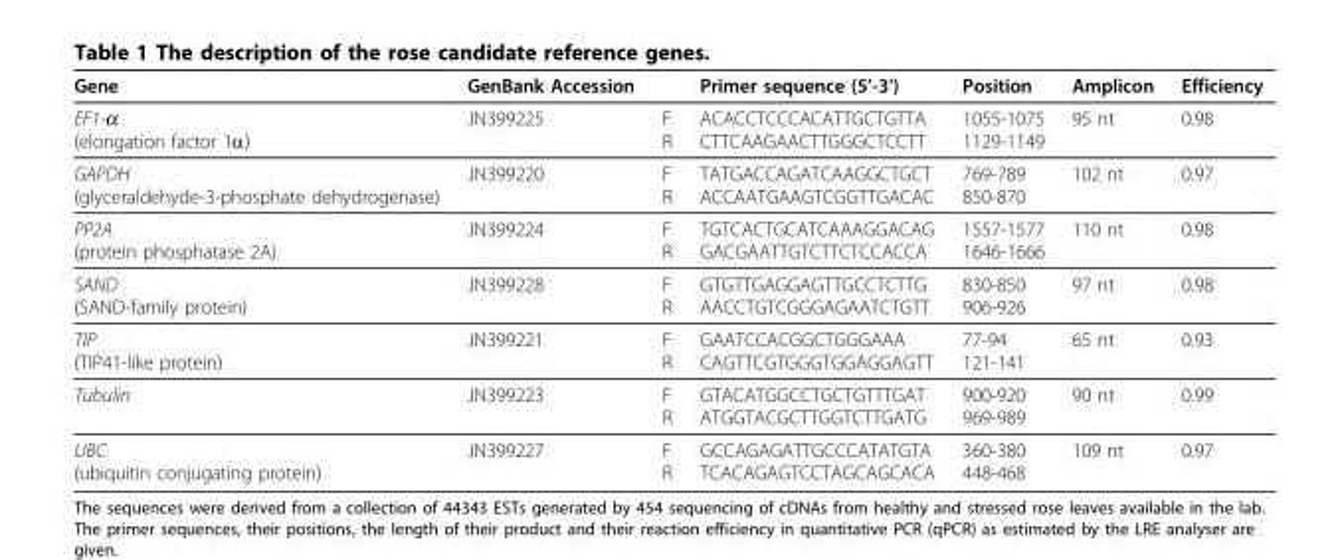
<table><thead><tr><td>Gene</td><td>GenBank Accession</td><td></td><td>Primer sequence (5’-3’)</td><td>Position</td><td>Amplicon</td><td>Efficiency</td></tr></thead><tbody><tr><td>EF1-α (elongation factor 1α)</td><td>JN399225</td><td>F R</td><td>ACACCTCCCACATTGCTGTTA CTTCAAGAACTTGGGCTCCTT</td><td>1055-1075 1129-1149</td><td>95 nt</td><td>0.98</td></tr><tr><td>GAPDH (glyceraldehyde-3-phosphate dehydrogenase)</td><td>JN399220</td><td>F R</td><td>TATGACCAGATCAAGGCTGCT ACCAATGAAGTCGGTTGACAC</td><td>769-789 850-870</td><td>102 nt</td><td>0.97</td></tr><tr><td>PP2A (protein phosphatase 2A)</td><td>JN399224</td><td>F R</td><td>TGTCACTGCATCAAAGGACAG GACGAATTGTCTTCTCCACCA</td><td>1557-1577 1646-1666</td><td>110 nt</td><td>0.98</td></tr><tr><td>SAND (SAND-family protein)</td><td>JN399228</td><td>F R</td><td>GTGTTGAGGAGTTGCCTCTTG AACCTGTCGGGAGAATCTGTT</td><td>830-850 906-926</td><td>97 nt</td><td>0.98</td></tr><tr><td>TIP (TIP41-like protein)</td><td>JN399221</td><td>F R</td><td>GAATCCACGGCTGGGAAA CAGTTCGTGGGTGGAGGAGTT</td><td>77-94 121-141</td><td>65 nt</td><td>0.93</td></tr><tr><td>Tubulin</td><td>JN399223</td><td>F R</td><td>GTACATGGCCTGCTGTTTGAT ATGGTACGCTTGGTCTTGATG</td><td>900-920 969-989</td><td>90 nt</td><td>0.99</td></tr><tr><td>UBC (ubiquitin conjugating protein)</td><td>JN399227</td><td>F R</td><td>GCCAGAGATTGCCCATATGTA TCACAGAGTCCTAGCAGCACA</td><td>360-380 448-468</td><td>109 nt</td><td>0.97</td></tr></tbody></table>